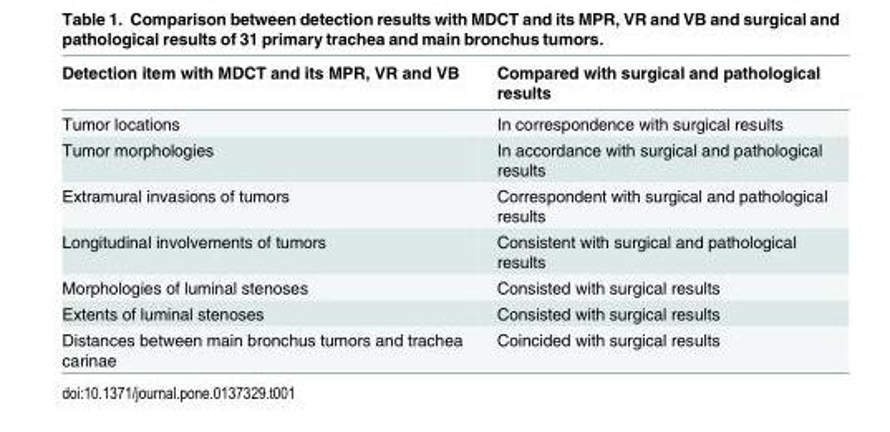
<table><thead><tr><td>Detection item with MDCT and its MPR, VR and VB</td><td>Compared with surgical and pathological results</td></tr></thead><tbody><tr><td>Tumor locations</td><td>In correspondence with surgical results</td></tr><tr><td>Tumor morphologies</td><td>In accordance with surgical and pathological results</td></tr><tr><td>Extramural invasions of tumors</td><td>Correspondent with surgical and pathological results</td></tr><tr><td>Longitudinal involvements of tumors</td><td>Consistent with surgical and pathological results</td></tr><tr><td>Morphologies of luminal stenoses</td><td>Consisted with surgical results</td></tr><tr><td>Extents of luminal stenoses</td><td>Consisted with surgical results</td></tr><tr><td>Distances between main bronchus tumors and trachea carinae</td><td>Coincided with surgical results</td></tr></tbody></table>